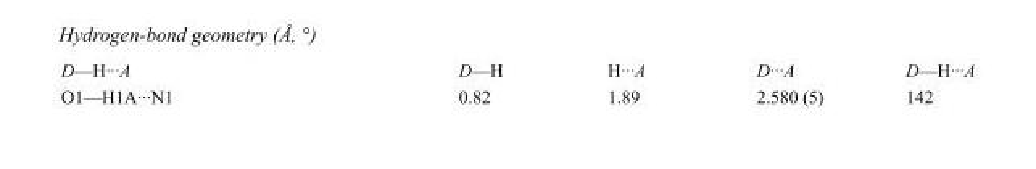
<table><tbody><tr><td>D—H···A</td><td>D—H</td><td>H···A</td><td>D···A</td><td>D—H···A</td></tr><tr><td>O1—H1A···N1</td><td>0.82</td><td>1.89</td><td>2.580 (5)</td><td>142</td></tr></tbody></table>